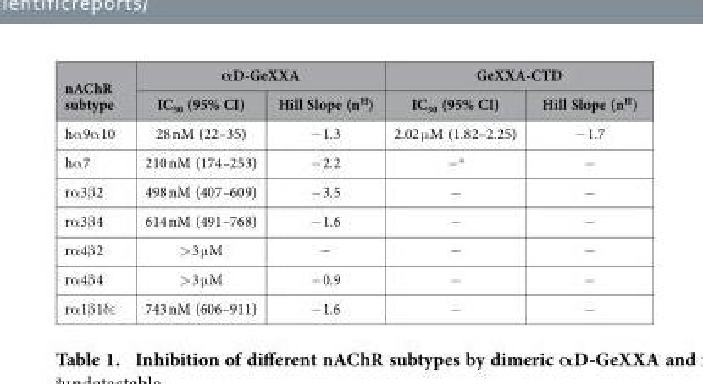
<table><thead><tr><td rowspan="2">nAChR subtype</td><td colspan="2">αD-GeXXA</td><td colspan="2">GeXXA-CTD</td></tr><tr><td>IC<sub>50</sub> (95% CI)</td><td>Hill Slope (n<sup>H</sup>)</td><td>IC<sub>50</sub> (95% CI)</td><td>Hill Slope (n<sup>H</sup>)</td></tr></thead><tbody><tr><td>hα 9α 10</td><td>28 nM (22–35)</td><td>− 1.3</td><td>2.02 μ M (1.82–2.25)</td><td>− 1.7</td></tr><tr><td>hα 7</td><td>210 nM (174–253)</td><td>− 2.2</td><td>− a</td><td>−</td></tr><tr><td>rα 3β 2</td><td>498 nM (407–609)</td><td>− 3.5</td><td>−</td><td>−</td></tr><tr><td>rα 3β 4</td><td>614 nM (491–768)</td><td>− 1.6</td><td>−</td><td>−</td></tr><tr><td>rα 4β 2</td><td>&gt; 3 μ M</td><td>−</td><td>−</td><td>−</td></tr><tr><td>rα 4β 4</td><td>&gt; 3 μ M</td><td>− 0.9</td><td>−</td><td>−</td></tr><tr><td>rα 1β 1δ ε</td><td>743 nM (606–911)</td><td>− 1.6</td><td>−</td><td>−</td></tr></tbody></table>